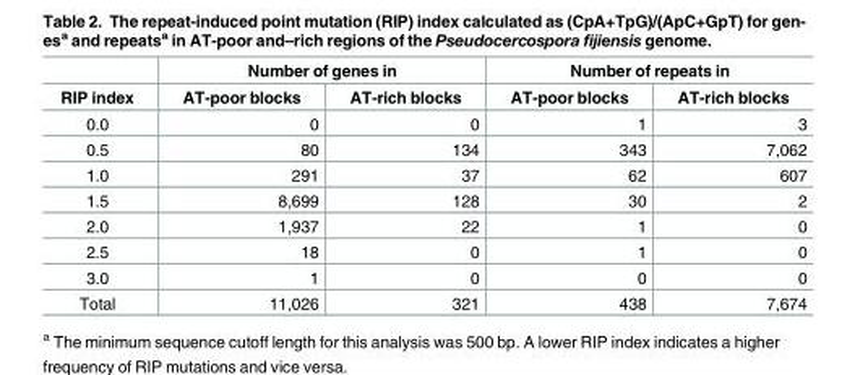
<table><thead><tr><td rowspan="2">RIP index</td><td colspan="2">Number of genes in</td><td colspan="2">Number of repeats in</td></tr><tr><td>AT-poor blocks</td><td>AT-rich blocks</td><td>AT-poor blocks</td><td>AT-rich blocks</td></tr></thead><tbody><tr><td>0.0</td><td>0</td><td>0</td><td>1</td><td>3</td></tr><tr><td>0.5</td><td>80</td><td>134</td><td>343</td><td>7,062</td></tr><tr><td>1.0</td><td>291</td><td>37</td><td>62</td><td>607</td></tr><tr><td>1.5</td><td>8,699</td><td>128</td><td>30</td><td>2</td></tr><tr><td>2.0</td><td>1,937</td><td>22</td><td>1</td><td>0</td></tr><tr><td>2.5</td><td>18</td><td>0</td><td>1</td><td>0</td></tr><tr><td>3.0</td><td>1</td><td>0</td><td>0</td><td>0</td></tr><tr><td>Total</td><td>11,026</td><td>321</td><td>438</td><td>7,674</td></tr></tbody></table>